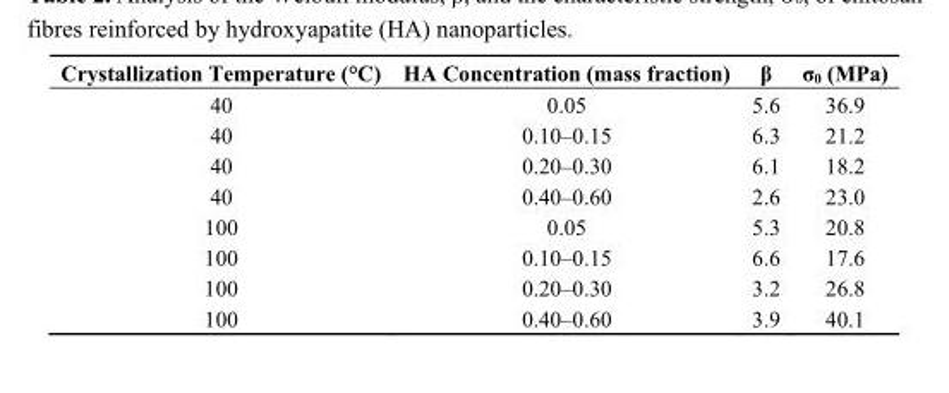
<table><thead><tr><td>Crystallization Temperature (°C)</td><td>HA Concentration (mass fraction)</td><td>β</td><td>σ<sub>0</sub> (MPa)</td></tr></thead><tbody><tr><td>40</td><td>0.05</td><td>5.6</td><td>36.9</td></tr><tr><td>40</td><td>0.10–0.15</td><td>6.3</td><td>21.2</td></tr><tr><td>40</td><td>0.20–0.30</td><td>6.1</td><td>18.2</td></tr><tr><td>40</td><td>0.40–0.60</td><td>2.6</td><td>23.0</td></tr><tr><td>100</td><td>0.05</td><td>5.3</td><td>20.8</td></tr><tr><td>100</td><td>0.10–0.15</td><td>6.6</td><td>17.6</td></tr><tr><td>100</td><td>0.20–0.30</td><td>3.2</td><td>26.8</td></tr><tr><td>100</td><td>0.40–0.60</td><td>3.9</td><td>40.1</td></tr></tbody></table>